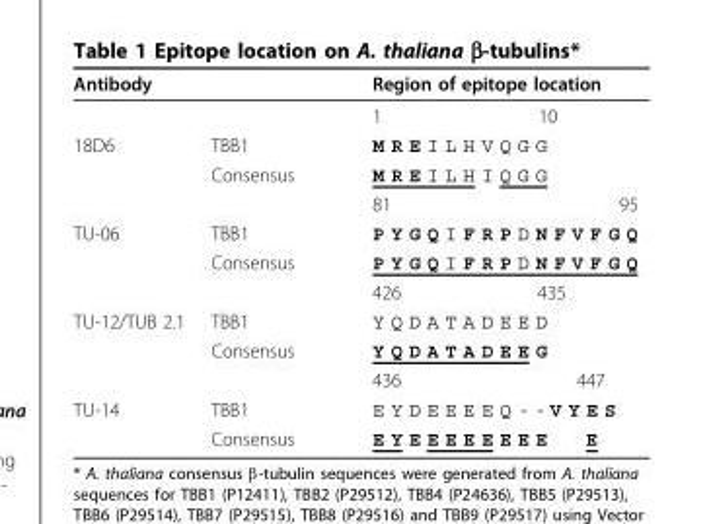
<table><thead><tr><td>Antibody</td><td></td><td>Region of epitope location</td></tr></thead><tbody><tr><td></td><td></td><td>1 10</td></tr><tr><td rowspan="3">18D6</td><td>TBB1</td><td>M R E I L H V Q G G</td></tr><tr><td>Consensus</td><td>M R E I L H I Q G G</td></tr><tr><td></td><td>81 95</td></tr><tr><td rowspan="3">TU-06</td><td>TBB1</td><td>P Y G Q I F R P D N F V F G Q</td></tr><tr><td>Consensus</td><td>P Y G Q I F R P D N F V F G Q</td></tr><tr><td></td><td>426 435</td></tr><tr><td rowspan="3">TU-12/TUB 2.1</td><td>TBB1</td><td>Y Q D A T A D E E D</td></tr><tr><td>Consensus</td><td>Y Q D A T A D E E G</td></tr><tr><td></td><td>436 447</td></tr><tr><td rowspan="2">TU-14</td><td>TBB1</td><td>E Y D E E E E Q - - V Y E S</td></tr><tr><td>Consensus</td><td>E Y E E E E E E E E E</td></tr></tbody></table>